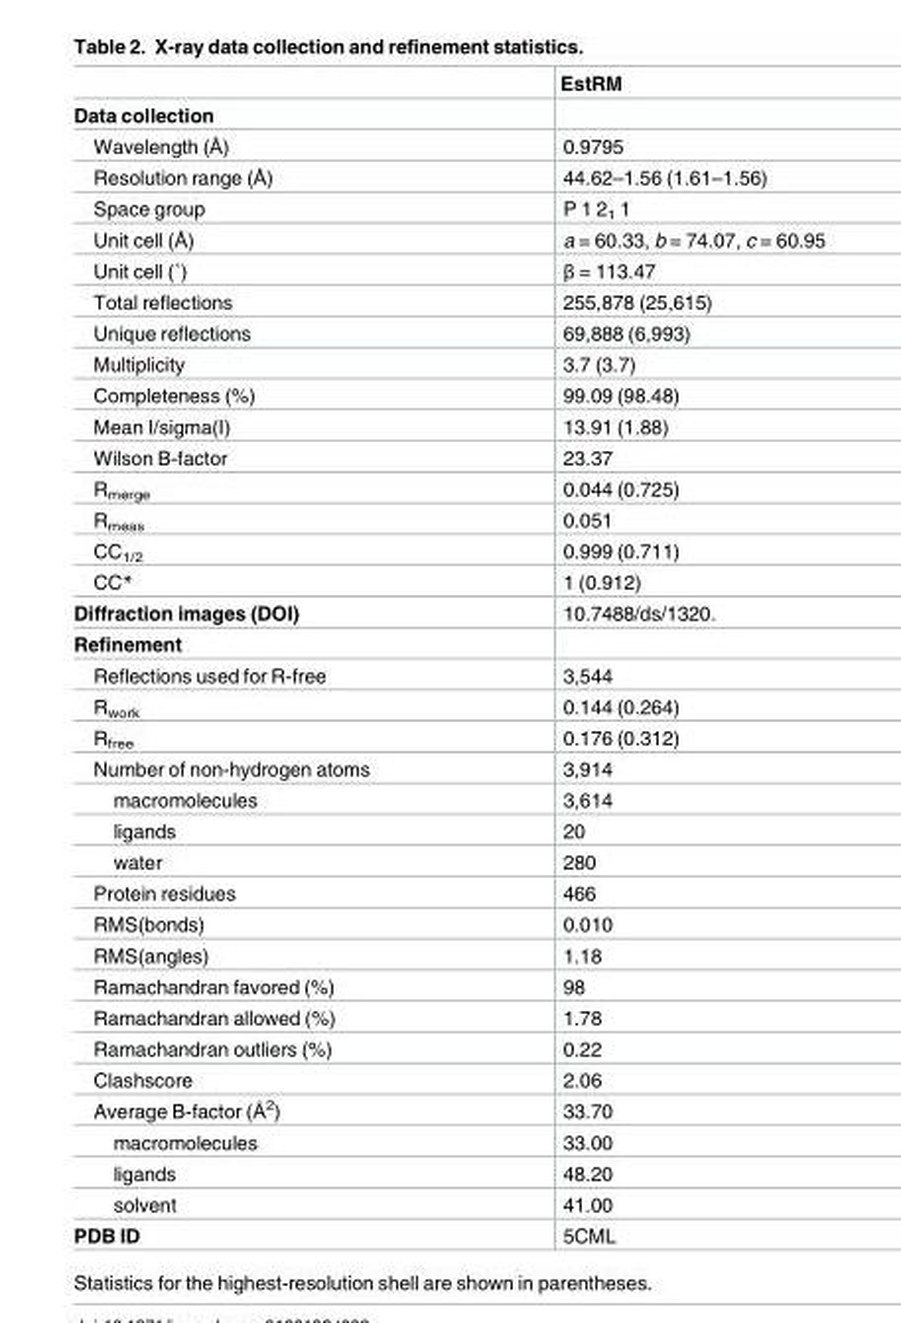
<table><thead><tr><td></td><td>EstRM</td></tr></thead><tbody><tr><td colspan="2">Data collection</td></tr><tr><td>Wavelength (Å)</td><td>0.9795</td></tr><tr><td>Resolution range (Å)</td><td>44.62–1.56 (1.61–1.56)</td></tr><tr><td>Space group</td><td>P 1 2<sub>1</sub> 1</td></tr><tr><td>Unit cell (Å)</td><td>a = 60.33, b = 74.07, c = 60.95</td></tr><tr><td>Unit cell (˚)</td><td>β = 113.47</td></tr><tr><td>Total reflections</td><td>255,878 (25,615)</td></tr><tr><td>Unique reflections</td><td>69,888 (6,993)</td></tr><tr><td>Multiplicity</td><td>3.7 (3.7)</td></tr><tr><td>Completeness (%)</td><td>99.09 (98.48)</td></tr><tr><td>Mean I/sigma(I)</td><td>13.91 (1.88)</td></tr><tr><td>Wilson B-factor</td><td>23.37</td></tr><tr><td>R<sub>merge</sub></td><td>0.044 (0.725)</td></tr><tr><td>R<sub>meas</sub></td><td>0.051</td></tr><tr><td>CC<sub>1/2</sub></td><td>0.999 (0.711)</td></tr><tr><td>CC*</td><td>1 (0.912)</td></tr><tr><td>Diffraction images (DOI)</td><td>10.7488/ds/1320.</td></tr><tr><td colspan="2">Refinement</td></tr><tr><td>Reflections used for R-free</td><td>3,544</td></tr><tr><td>R<sub>work</sub></td><td>0.144 (0.264)</td></tr><tr><td>R<sub>free</sub></td><td>0.176 (0.312)</td></tr><tr><td>Number of non-hydrogen atoms</td><td>3,914</td></tr><tr><td>macromolecules</td><td>3,614</td></tr><tr><td>ligands</td><td>20</td></tr><tr><td>water</td><td>280</td></tr><tr><td>Protein residues</td><td>466</td></tr><tr><td>RMS(bonds)</td><td>0.010</td></tr><tr><td>RMS(angles)</td><td>1.18</td></tr><tr><td>Ramachandran favored (%)</td><td>98</td></tr><tr><td>Ramachandran allowed (%)</td><td>1.78</td></tr><tr><td>Ramachandran outliers (%)</td><td>0.22</td></tr><tr><td>Clashscore</td><td>2.06</td></tr><tr><td>Average B-factor (Å<sup>2</sup>)</td><td>33.70</td></tr><tr><td>macromolecules</td><td>33.00</td></tr><tr><td>ligands</td><td>48.20</td></tr><tr><td>solvent</td><td>41.00</td></tr><tr><td>PDB ID</td><td>5CML</td></tr></tbody></table>